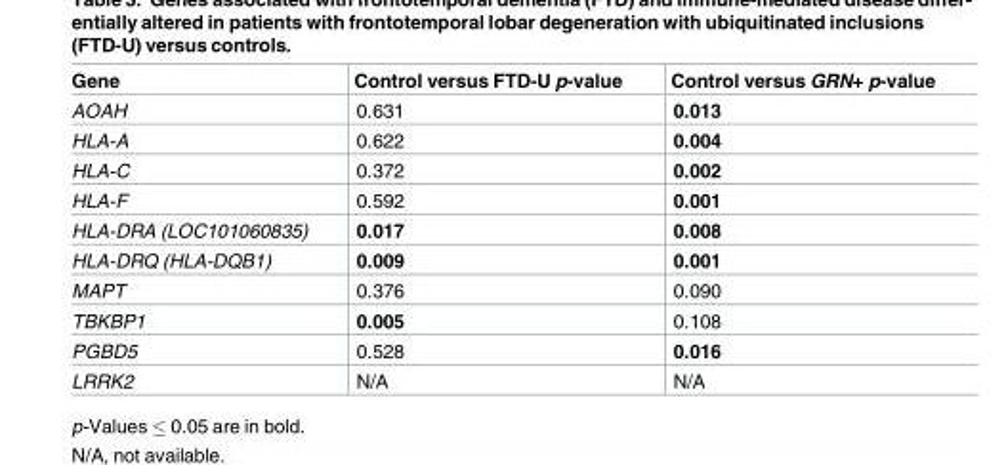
<table><thead><tr><td>Gene</td><td>Control versus FTD-U p-value</td><td>Control versus GRN+ p-value</td></tr></thead><tbody><tr><td>AOAH</td><td>0.631</td><td>0.013</td></tr><tr><td>HLA-A</td><td>0.622</td><td>0.004</td></tr><tr><td>HLA-C</td><td>0.372</td><td>0.002</td></tr><tr><td>HLA-F</td><td>0.592</td><td>0.001</td></tr><tr><td>HLA-DRA (LOC101060835)</td><td>0.017</td><td>0.008</td></tr><tr><td>HLA-DRQ (HLA-DQB1)</td><td>0.009</td><td>0.001</td></tr><tr><td>MAPT</td><td>0.376</td><td>0.090</td></tr><tr><td>TBKBP1</td><td>0.005</td><td>0.108</td></tr><tr><td>PGBD5</td><td>0.528</td><td>0.016</td></tr><tr><td>LRRK2</td><td>N/A</td><td>N/A</td></tr></tbody></table>